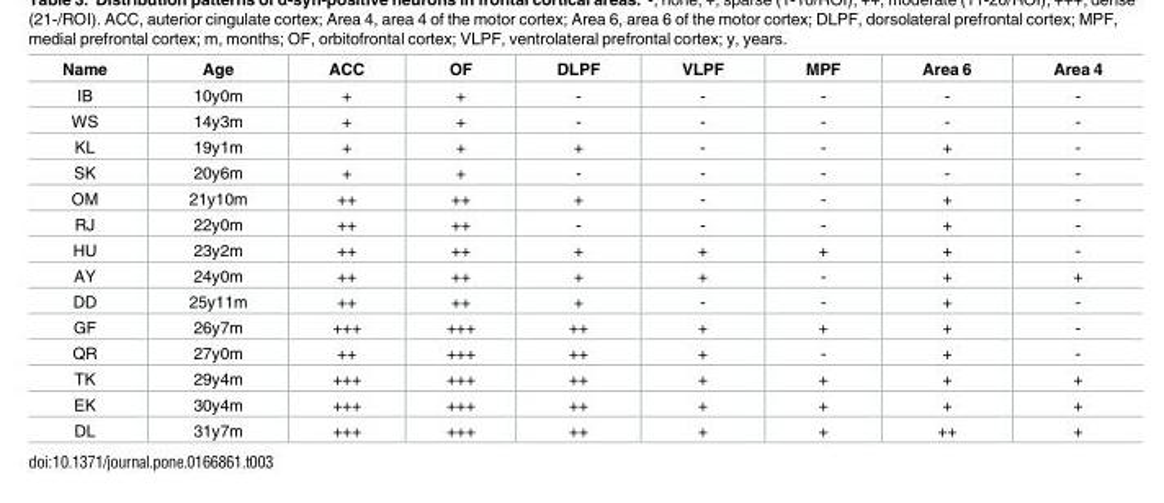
<table><thead><tr><td>Name</td><td>Age</td><td>ACC</td><td>OF</td><td>DLPF</td><td>VLPF</td><td>MPF</td><td>Area 6</td><td>Area 4</td></tr></thead><tbody><tr><td>IB</td><td>10y0m</td><td>+</td><td>+</td><td>-</td><td>-</td><td>-</td><td>-</td><td>-</td></tr><tr><td>WS</td><td>14y3m</td><td>+</td><td>+</td><td>-</td><td>-</td><td>-</td><td>-</td><td>-</td></tr><tr><td>KL</td><td>19y1m</td><td>+</td><td>+</td><td>+</td><td>-</td><td>-</td><td>+</td><td>-</td></tr><tr><td>SK</td><td>20y6m</td><td>+</td><td>+</td><td>-</td><td>-</td><td>-</td><td>-</td><td>-</td></tr><tr><td>OM</td><td>21y10m</td><td>++</td><td>++</td><td>+</td><td>-</td><td>-</td><td>+</td><td>-</td></tr><tr><td>RJ</td><td>22y0m</td><td>++</td><td>++</td><td>-</td><td>-</td><td>-</td><td>+</td><td>-</td></tr><tr><td>HU</td><td>23y2m</td><td>++</td><td>++</td><td>+</td><td>+</td><td>+</td><td>+</td><td>-</td></tr><tr><td>AY</td><td>24y0m</td><td>++</td><td>++</td><td>+</td><td>+</td><td>-</td><td>+</td><td>+</td></tr><tr><td>DD</td><td>25y11m</td><td>++</td><td>++</td><td>+</td><td>-</td><td>-</td><td>+</td><td>-</td></tr><tr><td>GF</td><td>26y7m</td><td>+++</td><td>+++</td><td>++</td><td>+</td><td>+</td><td>+</td><td>-</td></tr><tr><td>QR</td><td>27y0m</td><td>++</td><td>+++</td><td>++</td><td>+</td><td>-</td><td>+</td><td>-</td></tr><tr><td>TK</td><td>29y4m</td><td>+++</td><td>+++</td><td>++</td><td>+</td><td>+</td><td>+</td><td>+</td></tr><tr><td>EK</td><td>30y4m</td><td>+++</td><td>+++</td><td>++</td><td>+</td><td>+</td><td>+</td><td>+</td></tr><tr><td>DL</td><td>31y7m</td><td>+++</td><td>+++</td><td>++</td><td>+</td><td>+</td><td>++</td><td>+</td></tr></tbody></table>